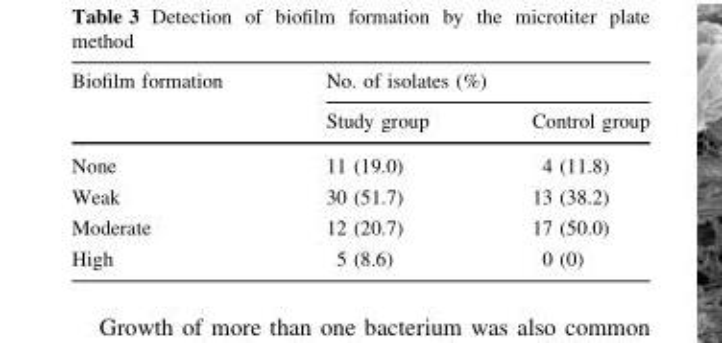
<table><thead><tr><td rowspan="2">Biofilm formation</td><td colspan="2">No. of isolates (%)</td></tr><tr><td>Study group</td><td>Control group</td></tr></thead><tbody><tr><td>None</td><td>11 (19.0)</td><td>4 (11.8)</td></tr><tr><td>Weak</td><td>30 (51.7)</td><td>13 (38.2)</td></tr><tr><td>Moderate</td><td>12 (20.7)</td><td>17 (50.0)</td></tr><tr><td>High</td><td>5 (8.6)</td><td>0 (0)</td></tr></tbody></table>